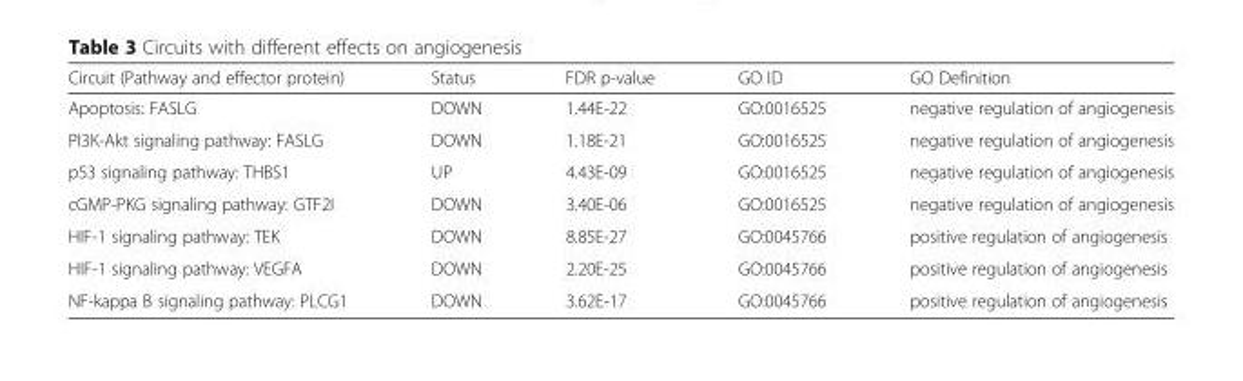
<table><thead><tr><td>Circuit (Pathway and effector protein)</td><td>Status</td><td>FDR p-value</td><td>GO ID</td><td>GO Definition</td></tr></thead><tbody><tr><td>Apoptosis: FASLG</td><td>DOWN</td><td>1.44E-22</td><td>GO:0016525</td><td>negative regulation of angiogenesis</td></tr><tr><td>PI3K-Akt signaling pathway: FASLG</td><td>DOWN</td><td>1.18E-21</td><td>GO:0016525</td><td>negative regulation of angiogenesis</td></tr><tr><td>p53 signaling pathway: THBS1</td><td>UP</td><td>4.43E-09</td><td>GO:0016525</td><td>negative regulation of angiogenesis</td></tr><tr><td>cGMP-PKG signaling pathway: GTF2I</td><td>DOWN</td><td>3.40E-06</td><td>GO:0016525</td><td>negative regulation of angiogenesis</td></tr><tr><td>HIF-1 signaling pathway: TEK</td><td>DOWN</td><td>8.85E-27</td><td>GO:0045766</td><td>positive regulation of angiogenesis</td></tr><tr><td>HIF-1 signaling pathway: VEGFA</td><td>DOWN</td><td>2.20E-25</td><td>GO:0045766</td><td>positive regulation of angiogenesis</td></tr><tr><td>NF-kappa B signaling pathway: PLCG1</td><td>DOWN</td><td>3.62E-17</td><td>GO:0045766</td><td>positive regulation of angiogenesis</td></tr></tbody></table>